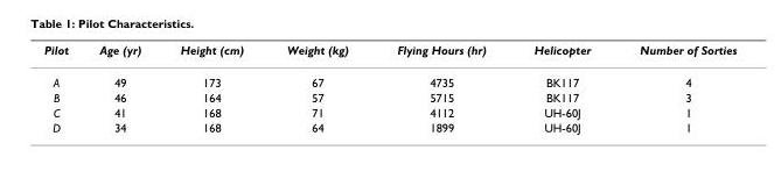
<table><thead><tr><td>Pilot</td><td>Age (yr)</td><td>Height (cm)</td><td>Weight (kg)</td><td>Flying Hours (hr)</td><td>Helicopter</td><td>Number of Sorties</td></tr></thead><tbody><tr><td>A</td><td>49</td><td>173</td><td>67</td><td>4735</td><td>BK117</td><td>4</td></tr><tr><td>B</td><td>46</td><td>164</td><td>57</td><td>5715</td><td>BK117</td><td>3</td></tr><tr><td>C</td><td>41</td><td>168</td><td>71</td><td>4112</td><td>UH-60J</td><td>1</td></tr><tr><td>D</td><td>34</td><td>168</td><td>64</td><td>1899</td><td>UH-60J</td><td>1</td></tr></tbody></table>